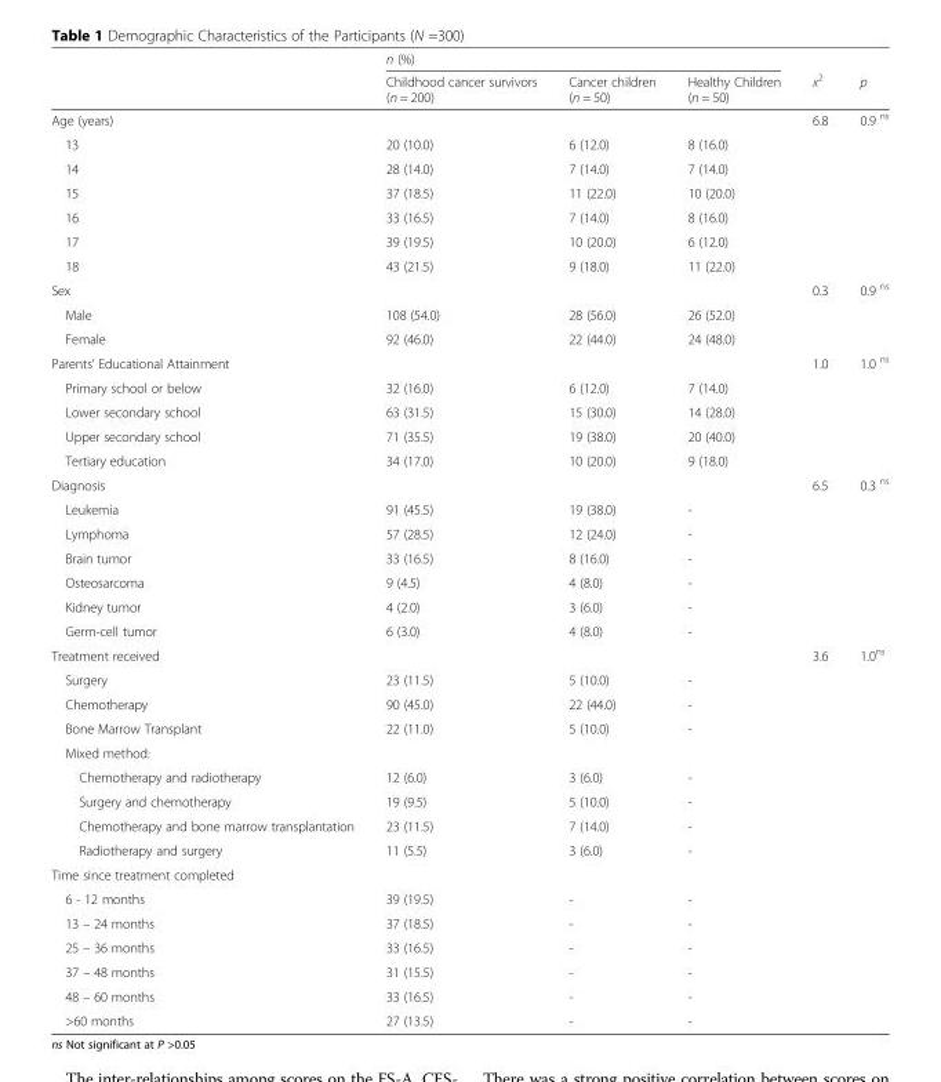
<table><thead><tr><td rowspan="2"></td><td colspan="3">n (%)</td><td rowspan="2">x<sup>2</sup></td><td rowspan="2">p</td></tr><tr><td>Childhood cancer survivors (n = 200)</td><td>Cancer children (n = 50)</td><td>Healthy Children (n = 50)</td></tr></thead><tbody><tr><td>Age (years)</td><td></td><td></td><td></td><td>6.8</td><td>0.9 <sup>ns</sup></td></tr><tr><td>13</td><td>20 (10.0)</td><td>6 (12.0)</td><td>8 (16.0)</td><td></td><td></td></tr><tr><td>14</td><td>28 (14.0)</td><td>7 (14.0)</td><td>7 (14.0)</td><td></td><td></td></tr><tr><td>15</td><td>37 (18.5)</td><td>11 (22.0)</td><td>10 (20.0)</td><td></td><td></td></tr><tr><td>16</td><td>33 (16.5)</td><td>7 (14.0)</td><td>8 (16.0)</td><td></td><td></td></tr><tr><td>17</td><td>39 (19.5)</td><td>10 (20.0)</td><td>6 (12.0)</td><td></td><td></td></tr><tr><td>18</td><td>43 (21.5)</td><td>9 (18.0)</td><td>11 (22.0)</td><td></td><td></td></tr><tr><td>Sex</td><td></td><td></td><td></td><td>0.3</td><td>0.9 <sup>ns</sup></td></tr><tr><td>Male</td><td>108 (54.0)</td><td>28 (56.0)</td><td>26 (52.0)</td><td></td><td></td></tr><tr><td>Female</td><td>92 (46.0)</td><td>22 (44.0)</td><td>24 (48.0)</td><td></td><td></td></tr><tr><td>Parents’ Educational Attainment</td><td></td><td></td><td></td><td>1.0</td><td>1.0 <sup>ns</sup></td></tr><tr><td>Primary school or below</td><td>32 (16.0)</td><td>6 (12.0)</td><td>7 (14.0)</td><td></td><td></td></tr><tr><td>Lower secondary school</td><td>63 (31.5)</td><td>15 (30.0)</td><td>14 (28.0)</td><td></td><td></td></tr><tr><td>Upper secondary school</td><td>71 (35.5)</td><td>19 (38.0)</td><td>20 (40.0)</td><td></td><td></td></tr><tr><td>Tertiary education</td><td>34 (17.0)</td><td>10 (20.0)</td><td>9 (18.0)</td><td></td><td></td></tr><tr><td>Diagnosis</td><td></td><td></td><td></td><td>6.5</td><td>0.3 <sup>ns</sup></td></tr><tr><td>Leukemia</td><td>91 (45.5)</td><td>19 (38.0)</td><td>-</td><td></td><td></td></tr><tr><td>Lymphoma</td><td>57 (28.5)</td><td>12 (24.0)</td><td>-</td><td></td><td></td></tr><tr><td>Brain tumor</td><td>33 (16.5)</td><td>8 (16.0)</td><td>-</td><td></td><td></td></tr><tr><td>Osteosarcoma</td><td>9 (4.5)</td><td>4 (8.0)</td><td>-</td><td></td><td></td></tr><tr><td>Kidney tumor</td><td>4 (2.0)</td><td>3 (6.0)</td><td>-</td><td></td><td></td></tr><tr><td>Germ-cell tumor</td><td>6 (3.0)</td><td>4 (8.0)</td><td>-</td><td></td><td></td></tr><tr><td>Treatment received</td><td></td><td></td><td></td><td>3.6</td><td>1.0<sup>ns</sup></td></tr><tr><td>Surgery</td><td>23 (11.5)</td><td>5 (10.0)</td><td>-</td><td></td><td></td></tr><tr><td>Chemotherapy</td><td>90 (45.0)</td><td>22 (44.0)</td><td>-</td><td></td><td></td></tr><tr><td>Bone Marrow Transplant</td><td>22 (11.0)</td><td>5 (10.0)</td><td>-</td><td></td><td></td></tr><tr><td colspan="6">Mixed method:</td></tr><tr><td>Chemotherapy and radiotherapy</td><td>12 (6.0)</td><td>3 (6.0)</td><td>-</td><td></td><td></td></tr><tr><td>Surgery and chemotherapy</td><td>19 (9.5)</td><td>5 (10.0)</td><td>-</td><td></td><td></td></tr><tr><td>Chemotherapy and bone marrow transplantation</td><td>23 (11.5)</td><td>7 (14.0)</td><td>-</td><td></td><td></td></tr><tr><td>Radiotherapy and surgery</td><td>11 (5.5)</td><td>3 (6.0)</td><td>-</td><td></td><td></td></tr><tr><td colspan="6">Time since treatment completed</td></tr><tr><td>6 - 12 months</td><td>39 (19.5)</td><td>-</td><td>-</td><td></td><td></td></tr><tr><td>13 – 24 months</td><td>37 (18.5)</td><td>-</td><td>-</td><td></td><td></td></tr><tr><td>25 – 36 months</td><td>33 (16.5)</td><td>-</td><td>-</td><td></td><td></td></tr><tr><td>37 – 48 months</td><td>31 (15.5)</td><td>-</td><td>-</td><td></td><td></td></tr><tr><td>48 – 60 months</td><td>33 (16.5)</td><td>-</td><td>-</td><td></td><td></td></tr><tr><td>&gt;60 months</td><td>27 (13.5)</td><td>-</td><td>-</td><td></td><td></td></tr></tbody></table>